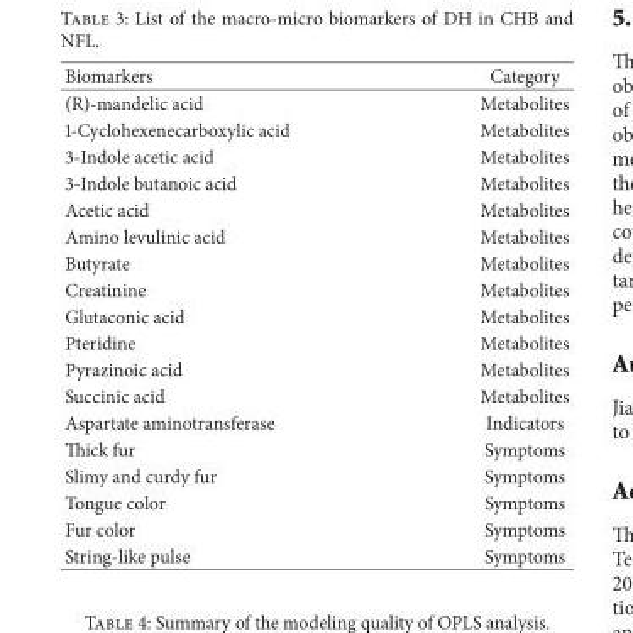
<table><thead><tr><td>Biomarkers</td><td>Category</td></tr></thead><tbody><tr><td>(R)-mandelic acid</td><td>Metabolites</td></tr><tr><td>1-Cyclohexenecarboxylic acid</td><td>Metabolites</td></tr><tr><td>3-Indole acetic acid</td><td>Metabolites</td></tr><tr><td>3-Indole butanoic acid</td><td>Metabolites</td></tr><tr><td>Acetic acid</td><td>Metabolites</td></tr><tr><td>Amino levulinic acid</td><td>Metabolites</td></tr><tr><td>Butyrate</td><td>Metabolites</td></tr><tr><td>Creatinine</td><td>Metabolites</td></tr><tr><td>Glutaconic acid</td><td>Metabolites</td></tr><tr><td>Pteridine</td><td>Metabolites</td></tr><tr><td>Pyrazinoic acid</td><td>Metabolites</td></tr><tr><td>Succinic acid</td><td>Metabolites</td></tr><tr><td>Aspartate aminotransferase</td><td>Indicators</td></tr><tr><td>Thick fur</td><td>Symptoms</td></tr><tr><td>Slimy and curdy fur</td><td>Symptoms</td></tr><tr><td>Tongue color</td><td>Symptoms</td></tr><tr><td>Fur color</td><td>Symptoms</td></tr><tr><td>String-like pulse</td><td>Symptoms</td></tr></tbody></table>